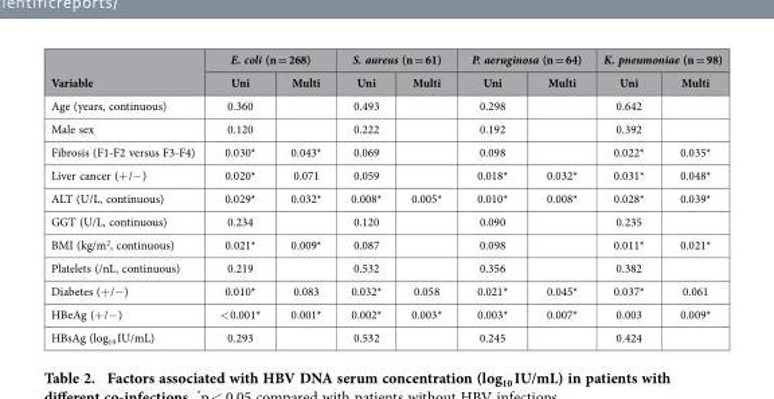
<table><thead><tr><td rowspan="2">Variable</td><td colspan="2">E. coli (n = 268)</td><td colspan="2">S. aureus (n = 61)</td><td colspan="2">P. aeruginosa (n = 64)</td><td colspan="2">K. pneumoniae (n = 98)</td></tr><tr><td>Uni</td><td>Multi</td><td>Uni</td><td>Multi</td><td>Uni</td><td>Multi</td><td>Uni</td><td>Multi</td></tr></thead><tbody><tr><td>Age (years, continuous)</td><td>0.360</td><td></td><td>0.493</td><td></td><td>0.298</td><td></td><td>0.642</td><td></td></tr><tr><td>Male sex</td><td>0.120</td><td></td><td>0.222</td><td></td><td>0.192</td><td></td><td>0.392</td><td></td></tr><tr><td>Fibrosis (F1-F2 versus F3-F4)</td><td>0.030*</td><td>0.043*</td><td>0.069</td><td></td><td>0.098</td><td></td><td>0.022*</td><td>0.035*</td></tr><tr><td>Liver cancer (+ /− )</td><td>0.020*</td><td>0.071</td><td>0.059</td><td></td><td>0.018*</td><td>0.032*</td><td>0.031*</td><td>0.048*</td></tr><tr><td>ALT (U/L, continuous)</td><td>0.029*</td><td>0.032*</td><td>0.008*</td><td>0.005*</td><td>0.010*</td><td>0.008*</td><td>0.028*</td><td>0.039*</td></tr><tr><td>GGT (U/L, continuous)</td><td>0.234</td><td></td><td>0.120</td><td></td><td>0.090</td><td></td><td>0.235</td><td></td></tr><tr><td>BMI (kg/m<sup>2</sup>, continuous)</td><td>0.021*</td><td>0.009*</td><td>0.087</td><td></td><td>0.098</td><td></td><td>0.011*</td><td>0.021*</td></tr><tr><td>Platelets (/nL, continuous)</td><td>0.219</td><td></td><td>0.532</td><td></td><td>0.356</td><td></td><td>0.382</td><td></td></tr><tr><td>Diabetes (+ /− )</td><td>0.010*</td><td>0.083</td><td>0.032*</td><td>0.058</td><td>0.021*</td><td>0.045*</td><td>0.037*</td><td>0.061</td></tr><tr><td>HBeAg (+ /− )</td><td>&lt; 0.001*</td><td>0.001*</td><td>0.002*</td><td>0.003*</td><td>0.003*</td><td>0.007*</td><td>0.003</td><td>0.009*</td></tr><tr><td>HBsAg (log<sub>10</sub> IU/mL)</td><td>0.293</td><td></td><td>0.532</td><td></td><td>0.245</td><td></td><td>0.424</td><td></td></tr></tbody></table>